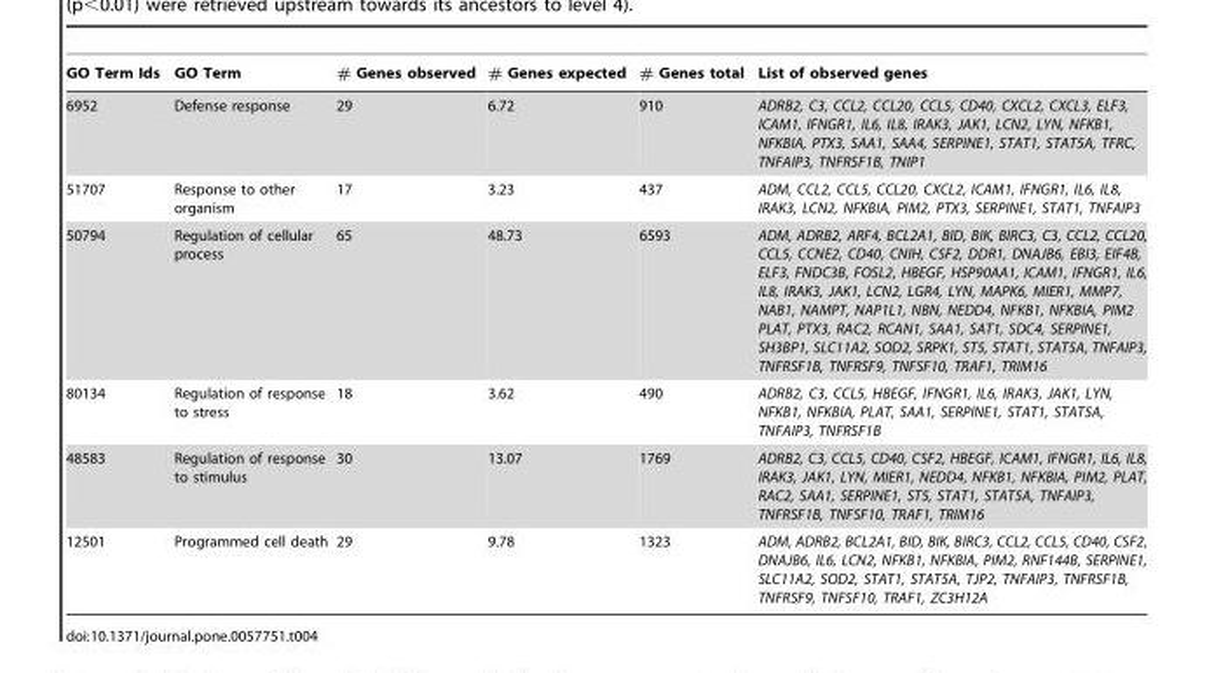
<table><thead><tr><td>GO Term Ids</td><td>GO Term</td><td># Genes observed</td><td># Genes expected</td><td># Genes total</td><td>List of observed genes</td></tr></thead><tbody><tr><td>6952</td><td>Defense response</td><td>29</td><td>6.72</td><td>910</td><td>ADRB2, C3, CCL2, CCL20, CCL5, CD40, CXCL2, CXCL3, ELF3, ICAM1, IFNGR1, IL6, IL8, IRAK3, JAK1, LCN2, LYN, NFKB1, NFKBIA, PTX3, SAA1, SAA4, SERPINE1, STAT1, STAT5A, TFRC, TNFAIP3, TNFRSF1B, TNIP1</td></tr><tr><td>51707</td><td>Response to other organism</td><td>17</td><td>3.23</td><td>437</td><td>ADM, CCL2, CCL5, CCL20, CXCL2, ICAM1, IFNGR1, IL6, IL8, IRAK3, LCN2, NFKBIA, PIM2, PTX3, SERPINE1, STAT1, TNFAIP3</td></tr><tr><td>50794</td><td>Regulation of cellular process</td><td>65</td><td>48.73</td><td>6593</td><td>ADM, ADRB2, ARF4, BCL2A1, BID, BIK, BIRC3, C3, CCL2, CCL20, CCL5, CCNE2, CD40, CNIH, CSF2, DDR1, DNAJB6, EBI3, EIF4B, ELF3, FNDC3B, FOSL2, HBEGF, HSP90AA1, ICAM1, IFNGR1, IL6, IL8, IRAK3, JAK1, LCN2, LGR4, LYN, MAPK6, MIER1, MMP7, NAB1, NAMPT, NAP1L1, NBN, NEDD4, NFKB1, NFKBIA, PIM2 PLAT, PTX3, RAC2, RCAN1, SAA1, SAT1, SDC4, SERPINE1, SH3BP1, SLC11A2, SOD2, SRPK1, ST5, STAT1, STAT5A, TNFAIP3, TNFRSF1B, TNFRSF9, TNFSF10, TRAF1, TRIM16</td></tr><tr><td>80134</td><td>Regulation of response to stress</td><td>18</td><td>3.62</td><td>490</td><td>ADRB2, C3, CCL5, HBEGF, IFNGR1, IL6, IRAK3, JAK1, LYN, NFKB1, NFKBIA, PLAT, SAA1, SERPINE1, STAT1, STAT5A, TNFAIP3, TNFRSF1B</td></tr><tr><td>48583</td><td>Regulation of response to stimulus</td><td>30</td><td>13.07</td><td>1769</td><td>ADRB2, C3, CCL5, CD40, CSF2, HBEGF, ICAM1, IFNGR1, IL6, IL8, IRAK3, JAK1, LYN, MIER1, NEDD4, NFKB1, NFKBIA, PIM2, PLAT, RAC2, SAA1, SERPINE1, ST5, STAT1, STAT5A, TNFAIP3, TNFRSF1B, TNFSF10, TRAF1, TRIM16</td></tr><tr><td>12501</td><td>Programmed cell death</td><td>29</td><td>9.78</td><td>1323</td><td>ADM, ADRB2, BCL2A1, BID, BIK, BIRC3, CCL2, CCL5, CD40, CSF2, DNAJB6, IL6, LCN2, NFKB1, NFKBIA, PIM2, RNF144B, SERPINE1, SLC11A2, SOD2, STAT1, STAT5A, TJP2, TNFAIP3, TNFRSF1B, TNFRSF9, TNFSF10, TRAF1, ZC3H12A</td></tr></tbody></table>